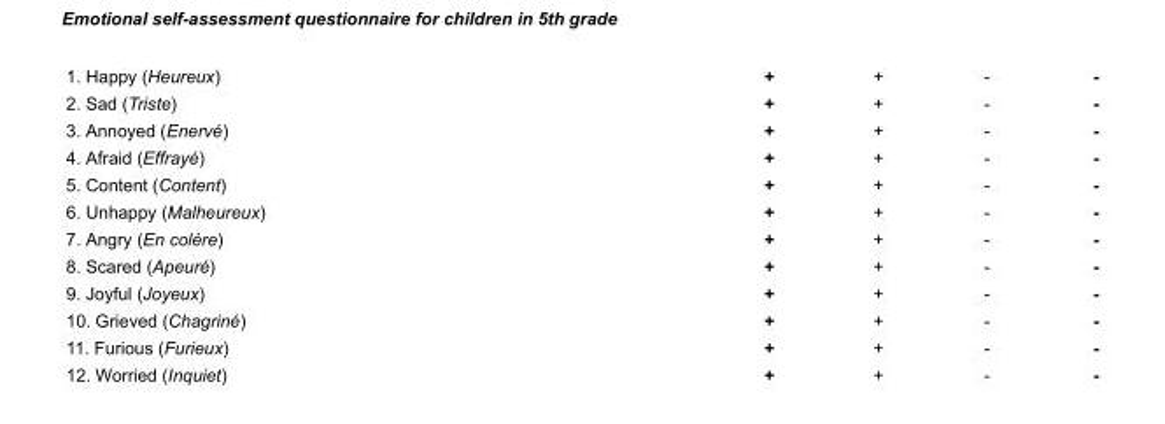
<table><tbody><tr><td>1. Happy (Heureux)</td><td>+</td><td>+</td><td>-</td><td>-</td></tr><tr><td>2. Sad (Triste)</td><td>+</td><td>+</td><td>-</td><td>-</td></tr><tr><td>3. Annoyed (Enervé)</td><td>+</td><td>+</td><td>-</td><td>-</td></tr><tr><td>4. Afraid (Effrayé)</td><td>+</td><td>+</td><td>-</td><td>-</td></tr><tr><td>5. Content (Content)</td><td>+</td><td>+</td><td>-</td><td>-</td></tr><tr><td>6. Unhappy (Malheureux)</td><td>+</td><td>+</td><td>-</td><td>-</td></tr><tr><td>7. Angry (En colère)</td><td>+</td><td>+</td><td>-</td><td>-</td></tr><tr><td>8. Scared (Apeuré)</td><td>+</td><td>+</td><td>-</td><td>-</td></tr><tr><td>9. Joyful (Joyeux)</td><td>+</td><td>+</td><td>-</td><td>-</td></tr><tr><td>10. Grieved (Chagriné)</td><td>+</td><td>+</td><td>-</td><td>-</td></tr><tr><td>11. Furious (Furieux)</td><td>+</td><td>+</td><td>-</td><td>-</td></tr></tbody></table>